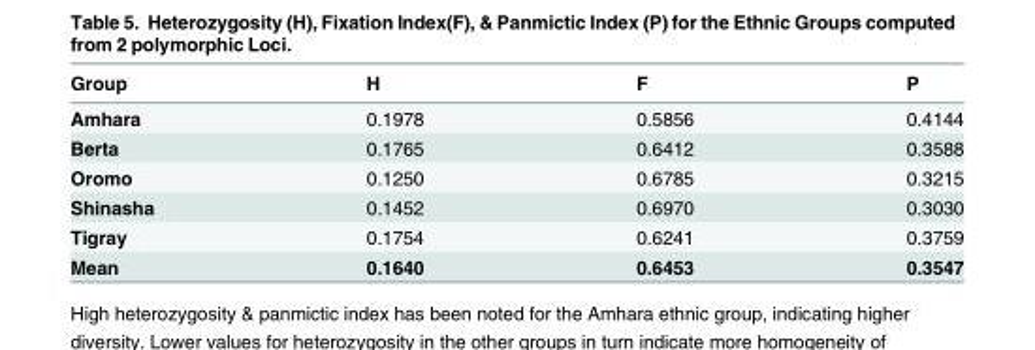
<table><thead><tr><td>Group</td><td>H</td><td>F</td><td>P</td></tr></thead><tbody><tr><td>Amhara</td><td>0.1978</td><td>0.5856</td><td>0.4144</td></tr><tr><td>Berta</td><td>0.1765</td><td>0.6412</td><td>0.3588</td></tr><tr><td>Oromo</td><td>0.1250</td><td>0.6785</td><td>0.3215</td></tr><tr><td>Shinasha</td><td>0.1452</td><td>0.6970</td><td>0.3030</td></tr><tr><td>Tigray</td><td>0.1754</td><td>0.6241</td><td>0.3759</td></tr><tr><td>Mean</td><td>0.1640</td><td>0.6453</td><td>0.3547</td></tr></tbody></table>